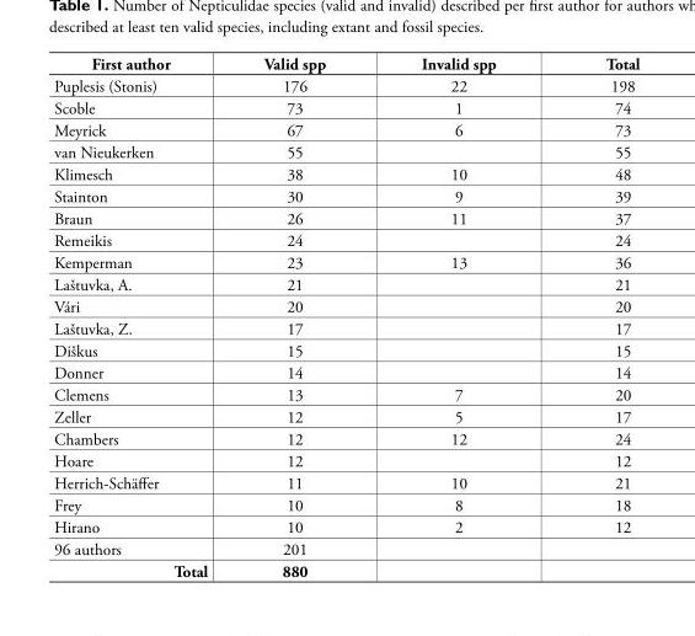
<table><thead><tr><td>First author</td><td>Valid spp</td><td>Invalid spp</td><td>Total</td></tr></thead><tbody><tr><td>Puplesis (Stonis)</td><td>176</td><td>22</td><td>198</td></tr><tr><td>Scoble</td><td>73</td><td>1</td><td>74</td></tr><tr><td>Meyrick</td><td>67</td><td>6</td><td>73</td></tr><tr><td>van Nieukerken</td><td>55</td><td></td><td>55</td></tr><tr><td>Klimesch</td><td>38</td><td>10</td><td>48</td></tr><tr><td>Stainton</td><td>30</td><td>9</td><td>39</td></tr><tr><td>Braun</td><td>26</td><td>11</td><td>37</td></tr><tr><td>Remeikis</td><td>24</td><td></td><td>24</td></tr><tr><td>Kemperman</td><td>23</td><td>13</td><td>36</td></tr><tr><td>Laštuvka, A.</td><td>21</td><td></td><td>21</td></tr><tr><td>Vári</td><td>20</td><td></td><td>20</td></tr><tr><td>Laštuvka, Z.</td><td>17</td><td></td><td>17</td></tr><tr><td>Diškus</td><td>15</td><td></td><td>15</td></tr><tr><td>Donner</td><td>14</td><td></td><td>14</td></tr><tr><td>Clemens</td><td>13</td><td>7</td><td>20</td></tr><tr><td>Zeller</td><td>12</td><td>5</td><td>17</td></tr><tr><td>Chambers</td><td>12</td><td>12</td><td>24</td></tr><tr><td>Hoare</td><td>12</td><td></td><td>12</td></tr><tr><td>Herrich-Schäffer</td><td>11</td><td>10</td><td>21</td></tr><tr><td>Frey</td><td>10</td><td>8</td><td>18</td></tr><tr><td>Hirano</td><td>10</td><td>2</td><td>12</td></tr><tr><td>96 authors</td><td>201</td><td></td><td></td></tr><tr><td>Total</td><td>880</td><td></td><td></td></tr></tbody></table>